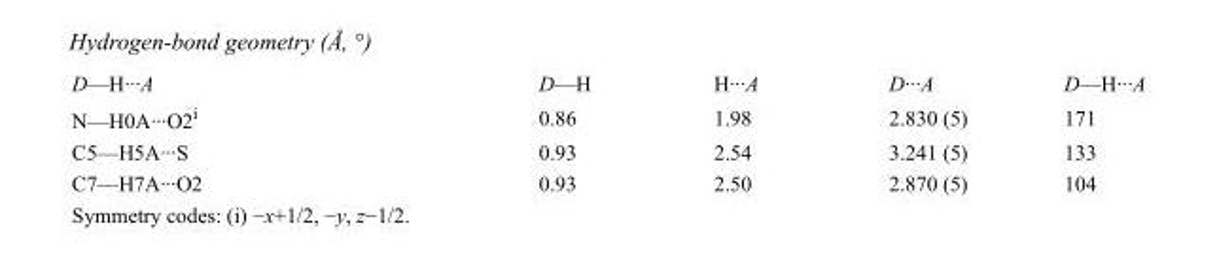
<table><tbody><tr><td>D—H···A</td><td>D—H</td><td>H···A</td><td>D···A</td><td>D—H···A</td></tr><tr><td>N—H0A···O2<sup>i</sup></td><td>0.86</td><td>1.98</td><td>2.830 (5)</td><td>171</td></tr><tr><td>C5—H5A···S</td><td>0.93</td><td>2.54</td><td>3.241 (5)</td><td>133</td></tr><tr><td>C7—H7A···O2</td><td>0.93</td><td>2.50</td><td>2.870 (5)</td><td>104</td></tr></tbody></table>